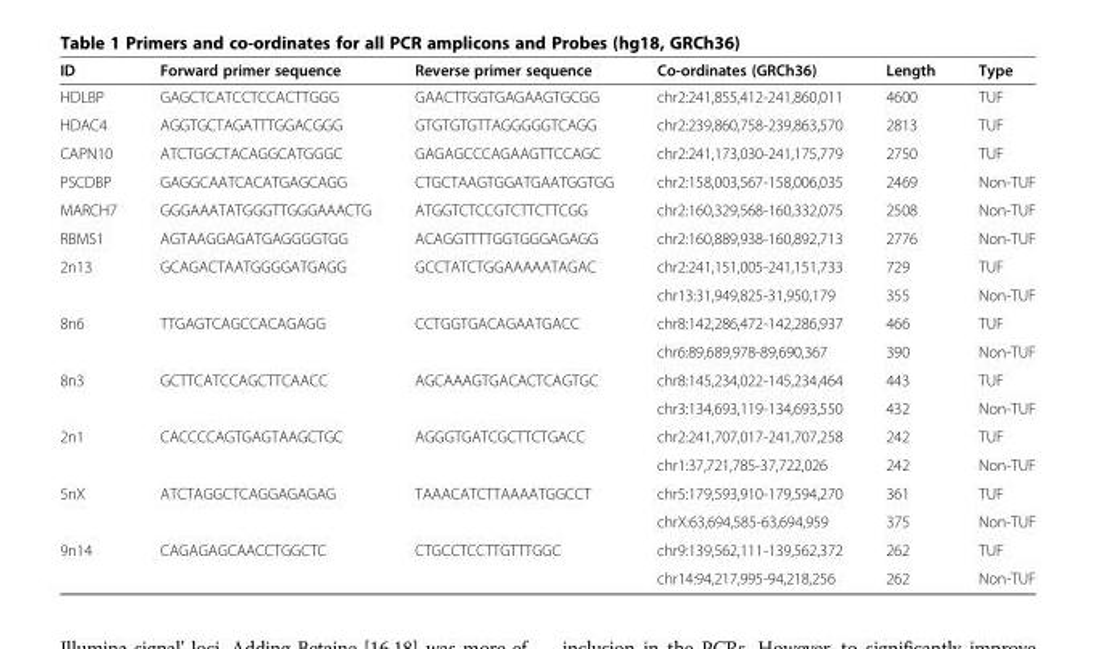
<table><thead><tr><td>ID</td><td>Forward primer sequence</td><td>Reverse primer sequence</td><td>Co-ordinates (GRCh36)</td><td>Length</td><td>Type</td></tr></thead><tbody><tr><td>HDLBP</td><td>GAGCTCATCCTCCACTTGGG</td><td>GAACTTGGTGAGAAGTGCGG</td><td>chr2:241,855,412-241,860,011</td><td>4600</td><td>TUF</td></tr><tr><td>HDAC4</td><td>AGGTGCTAGATTTGGACGGG</td><td>GTGTGTGTTAGGGGGTCAGG</td><td>chr2:239,860,758-239,863,570</td><td>2813</td><td>TUF</td></tr><tr><td>CAPN10</td><td>ATCTGGCTACAGGCATGGGC</td><td>GAGAGCCCAGAAGTTCCAGC</td><td>chr2:241,173,030-241,175,779</td><td>2750</td><td>TUF</td></tr><tr><td>PSCDBP</td><td>GAGGCAATCACATGAGCAGG</td><td>CTGCTAAGTGGATGAATGGTGG</td><td>chr2:158,003,567-158,006,035</td><td>2469</td><td>Non-TUF</td></tr><tr><td>MARCH7</td><td>GGGAAATATGGGTTGGGAAACTG</td><td>ATGGTCTCCGTCTTCTTCGG</td><td>chr2:160,329,568-160,332,075</td><td>2508</td><td>Non-TUF</td></tr><tr><td>RBMS1</td><td>AGTAAGGAGATGAGGGGTGG</td><td>ACAGGTTTTGGTGGGAGAGG</td><td>chr2:160,889,938-160,892,713</td><td>2776</td><td>Non-TUF</td></tr><tr><td rowspan="2">2n13</td><td>GCAGACTAATGGGGATGAGG</td><td>GCCTATCTGGAAAAATAGAC</td><td>chr2:241,151,005-241,151,733</td><td>729</td><td>TUF</td></tr><tr><td></td><td></td><td>chr13:31,949,825-31,950,179</td><td>355</td><td>Non-TUF</td></tr><tr><td rowspan="2">8n6</td><td>TTGAGTCAGCCACAGAGG</td><td>CCTGGTGACAGAATGACC</td><td>chr8:142,286,472-142,286,937</td><td>466</td><td>TUF</td></tr><tr><td></td><td></td><td>chr6:89,689,978-89,690,367</td><td>390</td><td>Non-TUF</td></tr><tr><td rowspan="2">8n3</td><td>GCTTCATCCAGCTTCAACC</td><td>AGCAAAGTGACACTCAGTGC</td><td>chr8:145,234,022-145,234,464</td><td>443</td><td>TUF</td></tr><tr><td></td><td></td><td>chr3:134,693,119-134,693,550</td><td>432</td><td>Non-TUF</td></tr><tr><td rowspan="2">2n1</td><td>CACCCCAGTGAGTAAGCTGC</td><td>AGGGTGATCGCTTCTGACC</td><td>chr2:241,707,017-241,707,258</td><td>242</td><td>TUF</td></tr><tr><td></td><td></td><td>chr1:37,721,785-37,722,026</td><td>242</td><td>Non-TUF</td></tr><tr><td rowspan="2">5nX</td><td>ATCTAGGCTCAGGAGAGAG</td><td>TAAACATCTTAAAATGGCCT</td><td>chr5:179,593,910-179,594,270</td><td>361</td><td>TUF</td></tr><tr><td></td><td></td><td>chrX:63,694,585-63,694,959</td><td>375</td><td>Non-TUF</td></tr><tr><td rowspan="2">9n14</td><td>CAGAGAGCAACCTGGCTC</td><td>CTGCCTCCTTGTTTGGC</td><td>chr9:139,562,111-139,562,372</td><td>262</td><td>TUF</td></tr><tr><td></td><td></td><td>chr14:94,217,995-94,218,256</td><td>262</td><td>Non-TUF</td></tr></tbody></table>